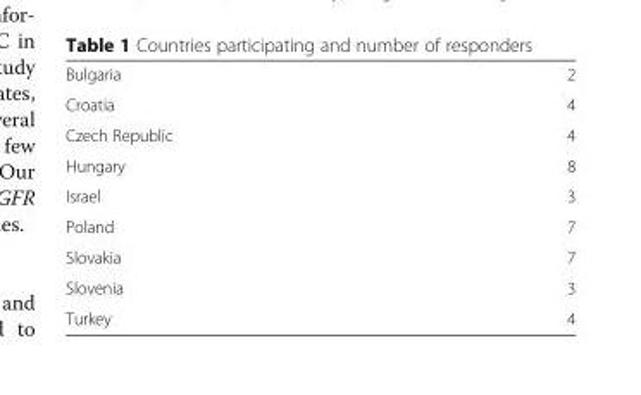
<table><tbody><tr><td>Bulgaria</td><td>2</td></tr><tr><td>Croatia</td><td>4</td></tr><tr><td>Czech Republic</td><td>4</td></tr><tr><td>Hungary</td><td>8</td></tr><tr><td>Israel</td><td>3</td></tr><tr><td>Poland</td><td>7</td></tr><tr><td>Slovakia</td><td>7</td></tr><tr><td>Slovenia</td><td>3</td></tr><tr><td>Turkey</td><td>4</td></tr></tbody></table>